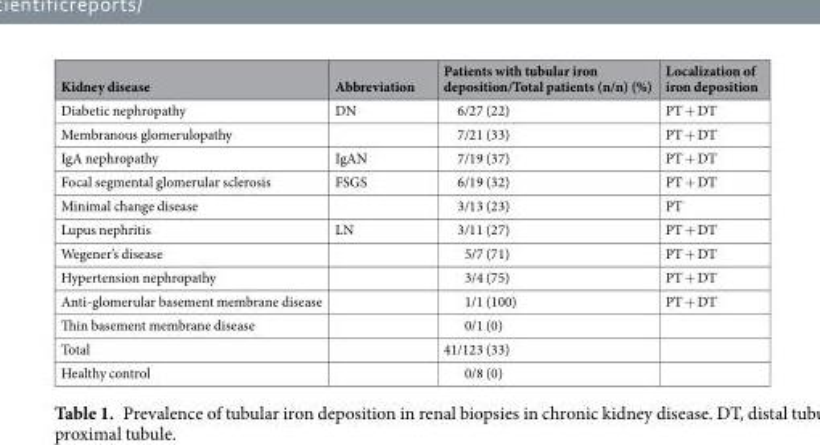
<table><thead><tr><td>Kidney disease</td><td>Abbreviation</td><td>Patients with tubular iron deposition/Total patients (n/n) (%)</td><td>Localization of iron deposition</td></tr></thead><tbody><tr><td>Diabetic nephropathy</td><td>DN</td><td>6/27 (22)</td><td>PT + DT</td></tr><tr><td>Membranous glomerulopathy</td><td></td><td>7/21 (33)</td><td>PT + DT</td></tr><tr><td>IgA nephropathy</td><td>IgAN</td><td>7/19 (37)</td><td>PT + DT</td></tr><tr><td>Focal segmental glomerular sclerosis</td><td>FSGS</td><td>6/19 (32)</td><td>PT + DT</td></tr><tr><td>Minimal change disease</td><td></td><td>3/13 (23)</td><td>PT</td></tr><tr><td>Lupus nephritis</td><td>LN</td><td>3/11 (27)</td><td>PT + DT</td></tr><tr><td>Wegener’s disease</td><td></td><td>5/7 (71)</td><td>PT + DT</td></tr><tr><td>Hypertension nephropathy</td><td></td><td>3/4 (75)</td><td>PT + DT</td></tr><tr><td>Anti-glomerular basement membrane disease</td><td></td><td>1/1 (100)</td><td>PT + DT</td></tr><tr><td>Thin basement membrane disease</td><td></td><td>0/1 (0)</td><td></td></tr><tr><td>Total</td><td></td><td>41/123 (33)</td><td></td></tr><tr><td>Healthy control</td><td></td><td>0/8 (0)</td><td></td></tr></tbody></table>